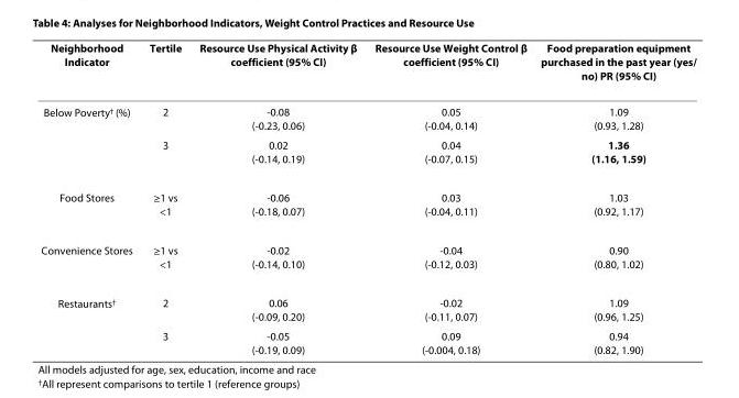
<table><thead><tr><td>Neighborhood Indicator</td><td>Tertile</td><td>Resource Use Physical Activity β coefficient (95% CI)</td><td>Resource Use Weight Control β coefficient (95% CI)</td><td>Food preparation equipment purchased in the past year (yes/ no) PR (95% CI)</td></tr></thead><tbody><tr><td rowspan="2">Below Poverty<sup>†</sup> (%)</td><td>2</td><td>-0.08 (-0.23, 0.06)</td><td>0.05 (-0.04, 0.14)</td><td>1.09 (0.93, 1.28)</td></tr><tr><td>3</td><td>0.02 (-0.14, 0.19)</td><td>0.04 (-0.07, 0.15)</td><td>1.36 (1.16, 1.59)</td></tr><tr><td>Food Stores</td><td>≥1 vs &lt;1</td><td>-0.06 (-0.18, 0.07)</td><td>0.03 (-0.04, 0.11)</td><td>1.03 (0.92, 1.17)</td></tr><tr><td>Convenience Stores</td><td>≥1 vs &lt;1</td><td>-0.02 (-0.14, 0.10)</td><td>-0.04 (-0.12, 0.03)</td><td>0.90 (0.80, 1.02)</td></tr><tr><td rowspan="2">Restaurants<sup>†</sup></td><td>2</td><td>0.06 (-0.09, 0.20)</td><td>-0.02 (-0.11, 0.07)</td><td>1.09 (0.96, 1.25)</td></tr><tr><td>3</td><td>-0.05 (-0.19, 0.09)</td><td>0.09 (-0.004, 0.18)</td><td>0.94 (0.82, 1.90)</td></tr></tbody></table>